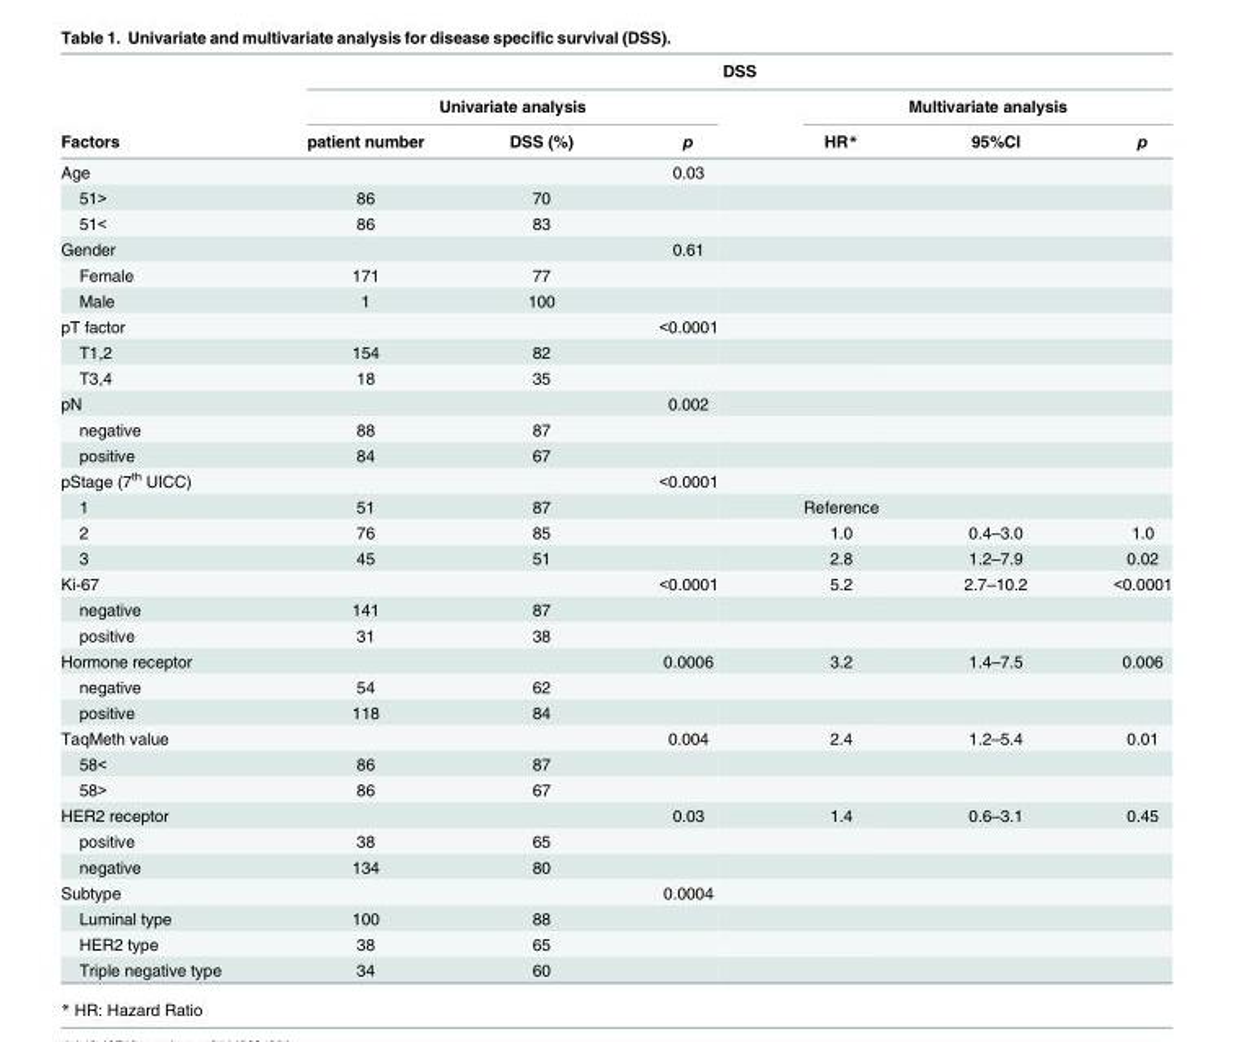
<table><thead><tr><td rowspan="3">Factors</td><td colspan="6">DSS</td></tr><tr><td colspan="3">Univariate analysis</td><td colspan="3">Multivariate analysis</td></tr><tr><td>patient number</td><td>DSS (%)</td><td>p</td><td>HR*</td><td>95%CI</td><td>p</td></tr></thead><tbody><tr><td>Age</td><td></td><td></td><td>0.03</td><td></td><td></td><td></td></tr><tr><td>51&gt;</td><td>86</td><td>70</td><td></td><td></td><td></td><td></td></tr><tr><td>51&lt;</td><td>86</td><td>83</td><td></td><td></td><td></td><td></td></tr><tr><td>Gender</td><td></td><td></td><td>0.61</td><td></td><td></td><td></td></tr><tr><td>Female</td><td>171</td><td>77</td><td></td><td></td><td></td><td></td></tr><tr><td>Male</td><td>1</td><td>100</td><td></td><td></td><td></td><td></td></tr><tr><td>pT factor</td><td></td><td></td><td>&lt;0.0001</td><td></td><td></td><td></td></tr><tr><td>T1,2</td><td>154</td><td>82</td><td></td><td></td><td></td><td></td></tr><tr><td>T3,4</td><td>18</td><td>35</td><td></td><td></td><td></td><td></td></tr><tr><td>pN</td><td></td><td></td><td>0.002</td><td></td><td></td><td></td></tr><tr><td>negative</td><td>88</td><td>87</td><td></td><td></td><td></td><td></td></tr><tr><td>positive</td><td>84</td><td>67</td><td></td><td></td><td></td><td></td></tr><tr><td>pStage (7<sup>th</sup> UICC)</td><td></td><td></td><td>&lt;0.0001</td><td></td><td></td><td></td></tr><tr><td>1</td><td>51</td><td>87</td><td></td><td>Reference</td><td></td><td></td></tr><tr><td>2</td><td>76</td><td>85</td><td></td><td>1.0</td><td>0.4–3.0</td><td>1.0</td></tr><tr><td>3</td><td>45</td><td>51</td><td></td><td>2.8</td><td>1.2–7.9</td><td>0.02</td></tr><tr><td>Ki-67</td><td></td><td></td><td>&lt;0.0001</td><td>5.2</td><td>2.7–10.2</td><td>&lt;0.0001</td></tr><tr><td>negative</td><td>141</td><td>87</td><td></td><td></td><td></td><td></td></tr><tr><td>positive</td><td>31</td><td>38</td><td></td><td></td><td></td><td></td></tr><tr><td>Hormone receptor</td><td></td><td></td><td>0.0006</td><td>3.2</td><td>1.4–7.5</td><td>0.006</td></tr><tr><td>negative</td><td>54</td><td>62</td><td></td><td></td><td></td><td></td></tr><tr><td>positive</td><td>118</td><td>84</td><td></td><td></td><td></td><td></td></tr><tr><td>TaqMeth value</td><td></td><td></td><td>0.004</td><td>2.4</td><td>1.2–5.4</td><td>0.01</td></tr><tr><td>58&lt;</td><td>86</td><td>87</td><td></td><td></td><td></td><td></td></tr><tr><td>58&gt;</td><td>86</td><td>67</td><td></td><td></td><td></td><td></td></tr><tr><td>HER2 receptor</td><td></td><td></td><td>0.03</td><td>1.4</td><td>0.6–3.1</td><td>0.45</td></tr><tr><td>positive</td><td>38</td><td>65</td><td></td><td></td><td></td><td></td></tr><tr><td>negative</td><td>134</td><td>80</td><td></td><td></td><td></td><td></td></tr><tr><td>Subtype</td><td></td><td></td><td>0.0004</td><td></td><td></td><td></td></tr><tr><td>Luminal type</td><td>100</td><td>88</td><td></td><td></td><td></td><td></td></tr><tr><td>HER2 type</td><td>38</td><td>65</td><td></td><td></td><td></td><td></td></tr><tr><td>Triple negative type</td><td>34</td><td>60</td><td></td><td></td><td></td><td></td></tr></tbody></table>